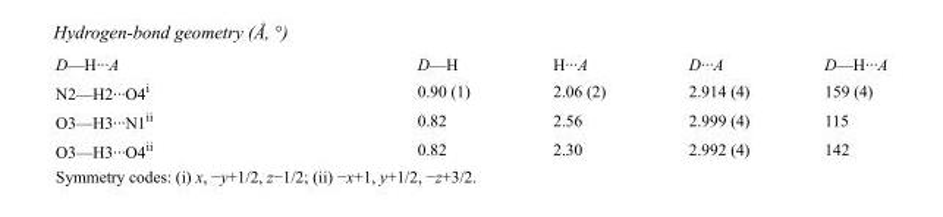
<table><tbody><tr><td>D—H···A</td><td>D—H</td><td>H···A</td><td>D···A</td><td>D—H···A</td></tr><tr><td>N2—H2···O4<sup>i</sup></td><td>0.90 (1)</td><td>2.06 (2)</td><td>2.914 (4)</td><td>159 (4)</td></tr><tr><td>O3—H3···N1<sup>ii</sup></td><td>0.82</td><td>2.56</td><td>2.999 (4)</td><td>115</td></tr><tr><td>O3—H3···O4<sup>ii</sup></td><td>0.82</td><td>2.30</td><td>2.992 (4)</td><td>142</td></tr></tbody></table>